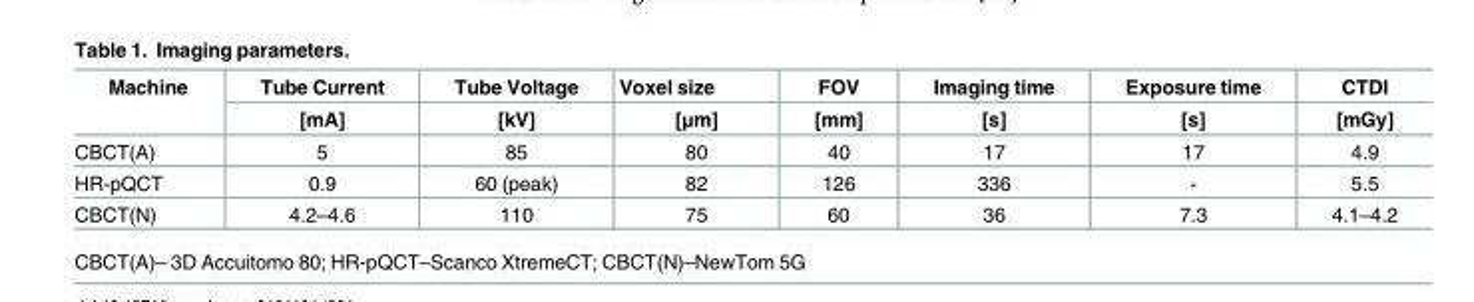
<table><thead><tr><td rowspan="2">Machine</td><td rowspan="2">Tube Current [mA]</td><td rowspan="2">Tube Voltage [kV]</td><td rowspan="2">Voxel size [μm]</td><td rowspan="2">FOV [mm]</td><td rowspan="2">Imaging time [s]</td><td rowspan="2">Exposure time [s]</td><td rowspan="2">CTDI [mGy]</td></tr><tr></tr></thead><tbody><tr><td>CBCT(A)</td><td>5</td><td>85</td><td>80</td><td>40</td><td>17</td><td>17</td><td>4.9</td></tr><tr><td>HR-pQCT</td><td>0.9</td><td>60 (peak)</td><td>82</td><td>126</td><td>336</td><td>-</td><td>5.5</td></tr><tr><td>CBCT(N)</td><td>4.2–4.6</td><td>110</td><td>75</td><td>60</td><td>36</td><td>7.3</td><td>4.1–4.2</td></tr></tbody></table>